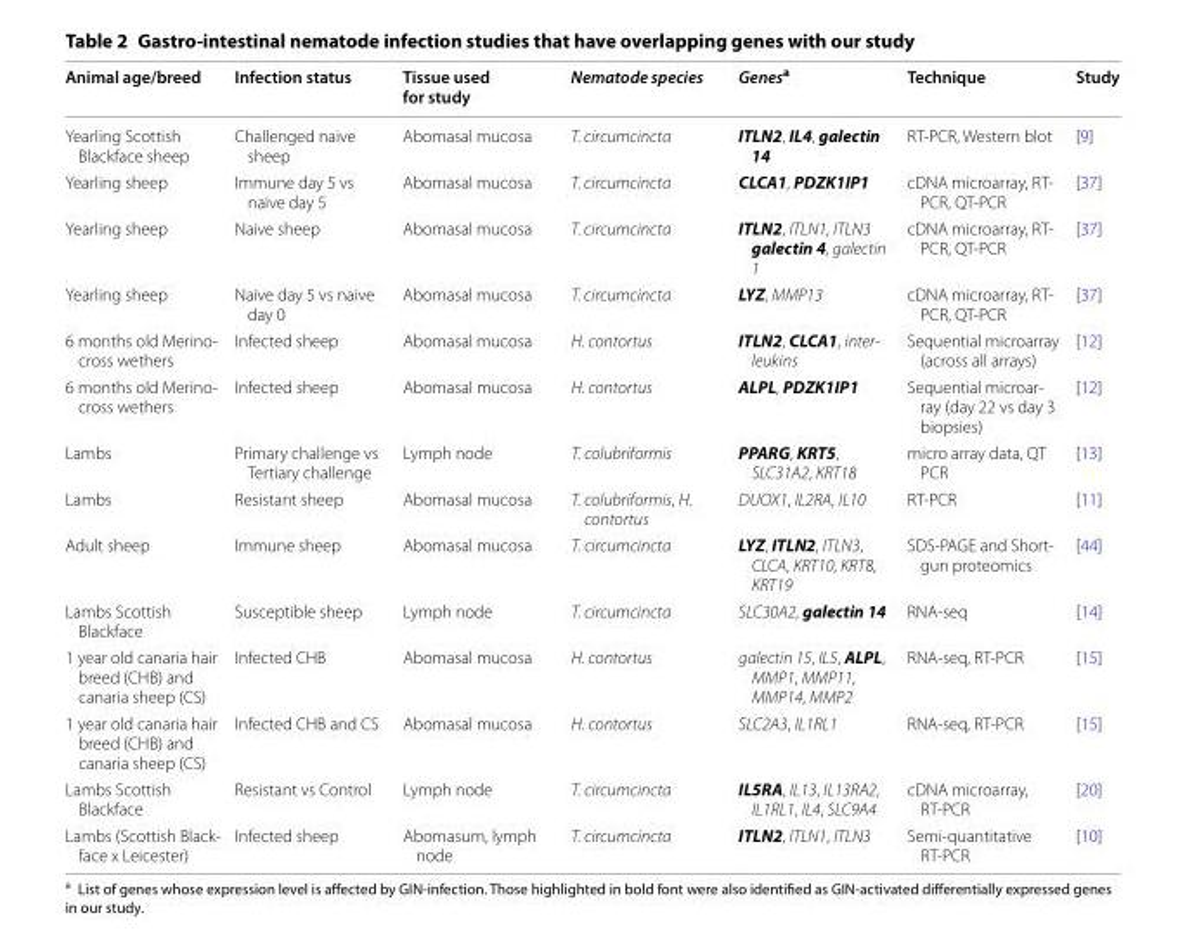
<table><thead><tr><td>Animal age/breed</td><td>Infection status</td><td>Tissue used for study</td><td>Nematode species</td><td>Genes<sup>a</sup></td><td>Technique</td><td>Study</td></tr></thead><tbody><tr><td>Yearling Scottish Blackface sheep</td><td>Challenged naive sheep</td><td>Abomasal mucosa</td><td>T. circumcincta</td><td>ITLN2, IL4, galectin 14</td><td>RT‑PCR, Western blot</td><td>[9]</td></tr><tr><td>Yearling sheep</td><td>Immune day 5 vs naïve day 5</td><td>Abomasal mucosa</td><td>T. circumcincta</td><td>CLCA1, PDZK1IP1</td><td>cDNA microarray, RT‑ PCR, QT‑PCR</td><td>[37]</td></tr><tr><td>Yearling sheep</td><td>Naive sheep</td><td>Abomasal mucosa</td><td>T. circumcincta</td><td>ITLN2, ITLN1, ITLN3 galectin 4, galectin 1</td><td>cDNA microarray, RT‑ PCR, QT‑PCR</td><td>[37]</td></tr><tr><td>Yearling sheep</td><td>Naive day 5 vs naive day 0</td><td>Abomasal mucosa</td><td>T. circumcincta</td><td>LYZ, MMP13</td><td>cDNA microarray, RT‑ PCR, QT‑PCR</td><td>[37]</td></tr><tr><td>6 months old Merino‑ cross wethers</td><td>Infected sheep</td><td>Abomasal mucosa</td><td>H. contortus</td><td>ITLN2, CLCA1, inter- leukins</td><td>Sequential microarray (across all arrays)</td><td>[12]</td></tr><tr><td>6 months old Merino‑ cross wethers</td><td>Infected sheep</td><td>Abomasal mucosa</td><td>H. contortus</td><td>ALPL, PDZK1IP1</td><td>Sequential microar‑ ray (day 22 vs day 3 biopsies)</td><td>[12]</td></tr><tr><td>Lambs</td><td>Primary challenge vs Tertiary challenge</td><td>Lymph node</td><td>T. colubriformis</td><td>PPARG, KRT5, SLC31A2, KRT18</td><td>micro array data, QT PCR</td><td>[13]</td></tr><tr><td>Lambs</td><td>Resistant sheep</td><td>Abomasal mucosa</td><td>T. colubriformis, H. contortus</td><td>DUOX1, IL2RA, IL10</td><td>RT‑PCR</td><td>[11]</td></tr><tr><td>Adult sheep</td><td>Immune sheep</td><td>Abomasal mucosa</td><td>T. circumcincta</td><td>LYZ, ITLN2, ITLN3, CLCA, KRT10, KRT8, KRT19</td><td>SDS‑PAGE and Short‑ gun proteomics</td><td>[44]</td></tr><tr><td>Lambs Scottish Blackface</td><td>Susceptible sheep</td><td>Lymph node</td><td>T. circumcincta</td><td>SLC30A2, galectin 14</td><td>RNA‑seq</td><td>[14]</td></tr><tr><td>1 year old canaria hair breed (CHB) and canaria sheep (CS)</td><td>Infected CHB</td><td>Abomasal mucosa</td><td>H. contortus</td><td>galectin 15, IL5, ALPL, MMP1, MMP11, MMP14, MMP2</td><td>RNA‑seq, RT‑PCR</td><td>[15]</td></tr><tr><td>1 year old canaria hair breed (CHB) and canaria sheep (CS)</td><td>Infected CHB and CS</td><td>Abomasal mucosa</td><td>H. contortus</td><td>SLC2A3, IL1RL1</td><td>RNA‑seq, RT‑PCR</td><td>[15]</td></tr><tr><td>Lambs Scottish Blackface</td><td>Resistant vs Control</td><td>Lymph node</td><td>T. circumcincta</td><td>IL5RA, IL13, IL13RA2, IL1RL1, IL4, SLC9A4</td><td>cDNA microarray, RT‑PCR</td><td>[20]</td></tr><tr><td>Lambs (Scottish Black‑ face x Leicester)</td><td>Infected sheep</td><td>Abomasum, lymph node</td><td>T. circumcincta</td><td>ITLN2, ITLN1, ITLN3</td><td>Semi‑quantitative RT‑PCR</td><td>[10]</td></tr></tbody></table>